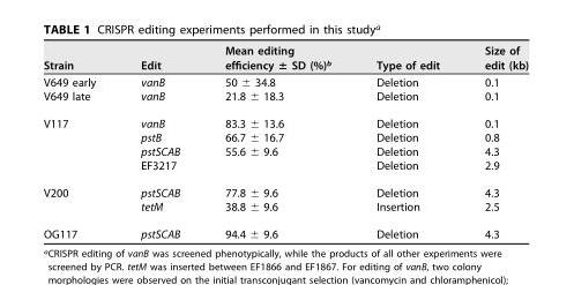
<table><thead><tr><td>Strain</td><td>Edit</td><td>Mean editing efficiency ± SD (%)<sup>b</sup></td><td>Type of edit</td><td>Size of edit (kb)</td></tr></thead><tbody><tr><td>V649 early</td><td>vanB</td><td>50 ± 34.8</td><td>Deletion</td><td>0.1</td></tr><tr><td>V649 late</td><td>vanB</td><td>21.8 ± 18.3</td><td>Deletion</td><td>0.1</td></tr><tr><td rowspan="4">V117</td><td>vanB</td><td>83.3 ± 13.6</td><td>Deletion</td><td>0.1</td></tr><tr><td>pstB</td><td>66.7 ± 16.7</td><td>Deletion</td><td>0.8</td></tr><tr><td>pstSCAB</td><td>55.6 ± 9.6</td><td>Deletion</td><td>4.3</td></tr><tr><td>EF3217</td><td></td><td>Deletion</td><td>2.9</td></tr><tr><td rowspan="2">V200</td><td>pstSCAB</td><td>77.8 ± 9.6</td><td>Deletion</td><td>4.3</td></tr><tr><td>tetM</td><td>38.8 ± 9.6</td><td>Insertion</td><td>2.5</td></tr><tr><td>OG117</td><td>pstSCAB</td><td>94.4 ± 9.6</td><td>Deletion</td><td>4.3</td></tr></tbody></table>